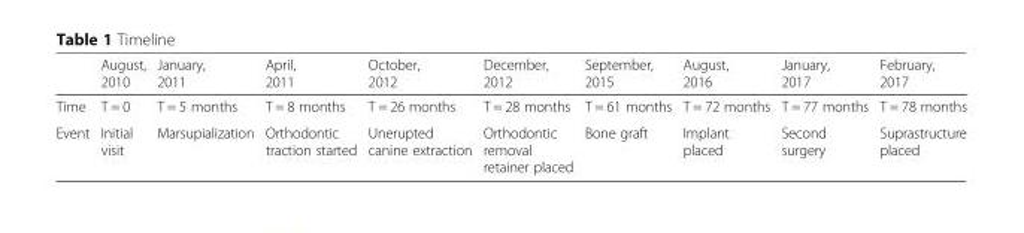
<table><thead><tr><td></td><td>August, 2010</td><td>January, 2011</td><td>April, 2011</td><td>October, 2012</td><td>December, 2012</td><td>September, 2015</td><td>August, 2016</td><td>January, 2017</td><td>February, 2017</td></tr></thead><tbody><tr><td>Time</td><td>T = 0</td><td>T = 5 months</td><td>T = 8 months</td><td>T = 26 months</td><td>T = 28 months</td><td>T = 61 months</td><td>T = 72 months</td><td>T = 77 months</td><td>T = 78 months</td></tr><tr><td>Event</td><td>Initial visit</td><td>Marsupialization</td><td>Orthodontic traction started</td><td>Unerupted canine extraction</td><td>Orthodontic removal retainer placed</td><td>Bone graft</td><td>Implant placed</td><td>Second surgery</td><td>Suprastructure placed</td></tr></tbody></table>